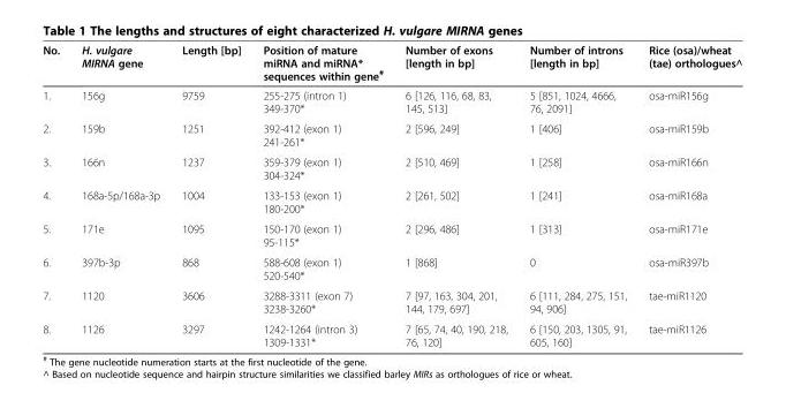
<table><thead><tr><td>No.</td><td>H. vulgare MIRNA gene</td><td>Length [bp]</td><td>Position of mature miRNA and miRNA* sequences within gene<sup>#</sup></td><td>Number of exons [length in bp]</td><td>Number of introns [length in bp]</td><td>Rice (osa)/wheat (tae) orthologues^</td></tr></thead><tbody><tr><td>1.</td><td>156g</td><td>9759</td><td>255-275 (intron 1) 349-370*</td><td>6 [126, 116, 68, 83, 145, 513]</td><td>5 [851, 1024, 4666, 76, 2091]</td><td>osa-miR156g</td></tr><tr><td>2.</td><td>159b</td><td>1251</td><td>392-412 (exon 1) 241-261*</td><td>2 [596, 249]</td><td>1 [406]</td><td>osa-miR159b</td></tr><tr><td>3.</td><td>166n</td><td>1237</td><td>359-379 (exon 1) 304-324*</td><td>2 [510, 469]</td><td>1 [258]</td><td>osa-miR166n</td></tr><tr><td>4.</td><td>168a-5p/168a-3p</td><td>1004</td><td>133-153 (exon 1) 180-200*</td><td>2 [261, 502]</td><td>1 [241]</td><td>osa-miR168a</td></tr><tr><td>5.</td><td>171e</td><td>1095</td><td>150-170 (exon 1) 95-115*</td><td>2 [296, 486]</td><td>1 [313]</td><td>osa-miR171e</td></tr><tr><td>6.</td><td>397b-3p</td><td>868</td><td>588-608 (exon 1) 520-540*</td><td>1 [868]</td><td>0</td><td>osa-miR397b</td></tr><tr><td>7.</td><td>1120</td><td>3606</td><td>3288-3311 (exon 7) 3238-3260*</td><td>7 [97, 163, 304, 201, 144, 179, 697]</td><td>6 [111, 284, 275, 151, 94, 906]</td><td>tae-miR1120</td></tr><tr><td>8.</td><td>1126</td><td>3297</td><td>1242-1264 (intron 3) 1309-1331*</td><td>7 [65, 74, 40, 190, 218, 76, 120]</td><td>6 [150, 203, 1305, 91, 605, 160]</td><td>tae-miR1126</td></tr></tbody></table>